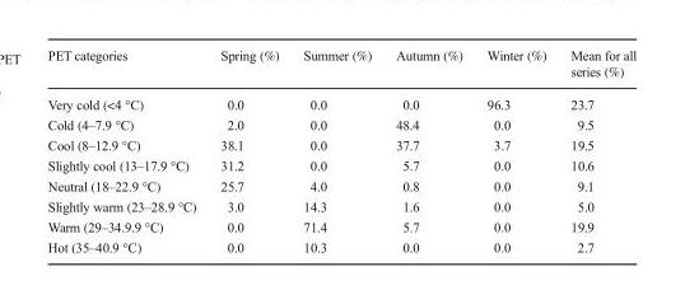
<table><thead><tr><td>PET categories</td><td>Spring (%)</td><td>Summer (%)</td><td>Autumn (%)</td><td>Winter (%)</td><td>Mean for all series (%)</td></tr></thead><tbody><tr><td>Very cold (&lt;4 °C)</td><td>0.0</td><td>0.0</td><td>0.0</td><td>96.3</td><td>23.7</td></tr><tr><td>Cold (4–7.9 °C)</td><td>2.0</td><td>0.0</td><td>48.4</td><td>0.0</td><td>9.5</td></tr><tr><td>Cool (8–12.9 °C)</td><td>38.1</td><td>0.0</td><td>37.7</td><td>3.7</td><td>19.5</td></tr><tr><td>Slightly cool (13–17.9 °C)</td><td>31.2</td><td>0.0</td><td>5.7</td><td>0.0</td><td>10.6</td></tr><tr><td>Neutral (18–22.9 °C)</td><td>25.7</td><td>4.0</td><td>0.8</td><td>0.0</td><td>9.1</td></tr><tr><td>Slightly warm (23–28.9 °C)</td><td>3.0</td><td>14.3</td><td>1.6</td><td>0.0</td><td>5.0</td></tr><tr><td>Warm (29–34.9.9 °C)</td><td>0.0</td><td>71.4</td><td>5.7</td><td>0.0</td><td>19.9</td></tr><tr><td>Hot (35–40.9 °C)</td><td>0.0</td><td>10.3</td><td>0.0</td><td>0.0</td><td>2.7</td></tr></tbody></table>